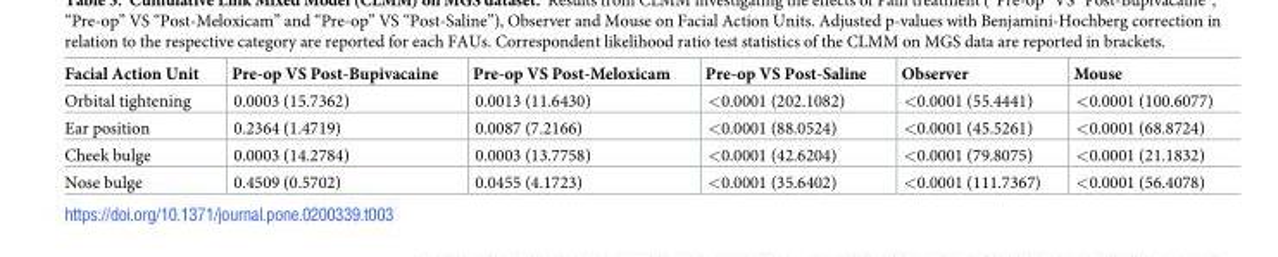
<table><thead><tr><td>Facial Action Unit</td><td>Pre-op VS Post-Bupivacaine</td><td>Pre-op VS Post-Meloxicam</td><td>Pre-op VS Post-Saline</td><td>Observer</td><td>Mouse</td></tr></thead><tbody><tr><td>Orbital tightening</td><td>0.0003 (15.7362)</td><td>0.0013 (11.6430)</td><td>&lt;0.0001 (202.1082)</td><td>&lt;0.0001 (55.4441)</td><td>&lt;0.0001 (100.6077)</td></tr><tr><td>Ear position</td><td>0.2364 (1.4719)</td><td>0.0087 (7.2166)</td><td>&lt;0.0001 (88.0524)</td><td>&lt;0.0001 (45.5261)</td><td>&lt;0.0001 (68.8724)</td></tr><tr><td>Cheek bulge</td><td>0.0003 (14.2784)</td><td>0.0003 (13.7758)</td><td>&lt;0.0001 (42.6204)</td><td>&lt;0.0001 (79.8075)</td><td>&lt;0.0001 (21.1832)</td></tr><tr><td>Nose bulge</td><td>0.4509 (0.5702)</td><td>0.0455 (4.1723)</td><td>&lt;0.0001 (35.6402)</td><td>&lt;0.0001 (111.7367)</td><td>&lt;0.0001 (56.4078)</td></tr></tbody></table>